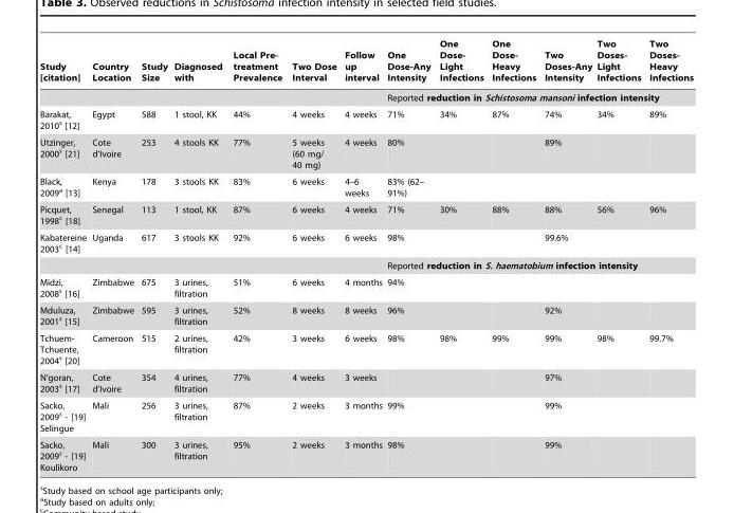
<table><thead><tr><td>Study [citation]</td><td>Country Location</td><td>Study Size</td><td>Diagnosed with</td><td>Local Pre- treatment Prevalence</td><td>Two Dose Interval</td><td>Follow up interval</td><td>One Dose-Any Intensity</td><td>One Dose- Light Infections</td><td>One Dose- Heavy Infections</td><td>Two Doses-Any Intensity</td><td>Two Doses- Light Infections</td><td>Two Doses- Heavy Infections</td></tr></thead><tbody><tr><td colspan="7"></td><td colspan="6">Reported reduction in Schistosoma mansoni infection intensity</td></tr><tr><td>Barakat, 2010<sup>s</sup> [12]</td><td>Egypt</td><td>588</td><td>1 stool, KK</td><td>44%</td><td>4 weeks</td><td>4 weeks</td><td>71%</td><td>34%</td><td>87%</td><td>74%</td><td>34%</td><td>89%</td></tr><tr><td>Utzinger, 2000<sup>s</sup> [21]</td><td>Cote d’Ivoire</td><td>253</td><td>4 stools KK</td><td>77%</td><td>5 weeks (60 mg/ 40 mg)</td><td>4 weeks</td><td>80%</td><td></td><td></td><td>89%</td><td></td><td></td></tr><tr><td>Black, 2009<sup>a</sup> [13]</td><td>Kenya</td><td>178</td><td>3 stools KK</td><td>83%</td><td>6 weeks</td><td>4–6 weeks</td><td>83% (62– 91%)</td><td></td><td></td><td></td><td></td><td></td></tr><tr><td>Picquet, 1998<sup>c</sup> [18]</td><td>Senegal</td><td>113</td><td>1 stool, KK</td><td>87%</td><td>6 weeks</td><td>4 weeks</td><td>71%</td><td>30%</td><td>88%</td><td>88%</td><td>56%</td><td>96%</td></tr><tr><td>Kabatereine 2003<sup>c</sup> [14]</td><td>Uganda</td><td>617</td><td>3 stools KK</td><td>92%</td><td>6 weeks</td><td>6 weeks</td><td>98%</td><td></td><td></td><td>99.6%</td><td></td><td></td></tr><tr><td colspan="7"></td><td colspan="6">Reported reduction in S. haematobium infection intensity</td></tr><tr><td>Midzi, 2008<sup>s</sup> [16]</td><td>Zimbabwe</td><td>675</td><td>3 urines, filtration</td><td>51%</td><td>6 weeks</td><td>4 months</td><td>94%</td><td></td><td></td><td></td><td></td><td></td></tr><tr><td>Mduluza, 2001<sup>s</sup> [15]</td><td>Zimbabwe</td><td>595</td><td>3 urines, filtration</td><td>52%</td><td>8 weeks</td><td>8 weeks</td><td>96%</td><td></td><td></td><td>92%</td><td></td><td></td></tr><tr><td>Tchuem- Tchuente, 2004<sup>s</sup> [20]</td><td>Cameroon</td><td>515</td><td>2 urines, filtration</td><td>42%</td><td>3 weeks</td><td>6 weeks</td><td>98%</td><td>98%</td><td>99%</td><td>99%</td><td>98%</td><td>99.7%</td></tr><tr><td>N’goran, 2003<sup>s</sup> [17]</td><td>Cote d’Ivoire</td><td>354</td><td>4 urines, filtration</td><td>77%</td><td>4 weeks</td><td>3 weeks</td><td></td><td></td><td></td><td>97%</td><td></td><td></td></tr><tr><td>Sacko, 2009<sup>s</sup> - [19] Selingue</td><td>Mali</td><td>256</td><td>3 urines, filtration</td><td>87%</td><td>2 weeks</td><td>3 months</td><td>99%</td><td></td><td></td><td>99%</td><td></td><td></td></tr><tr><td>Sacko, 2009<sup>s</sup> - [19] Koulikoro</td><td>Mali</td><td>300</td><td>3 urines, filtration</td><td>95%</td><td>2 weeks</td><td>3 months</td><td>98%</td><td></td><td></td><td>99%</td><td></td><td></td></tr></tbody></table>